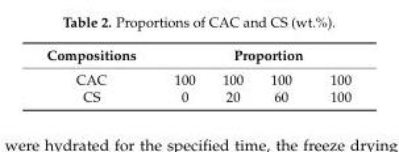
<table><thead><tr><td rowspan="2">Compositions CAC</td><td colspan="4">Proportion</td></tr><tr><td>100</td><td>100</td><td>100</td><td>100</td></tr></thead><tbody><tr><td>CS</td><td>0</td><td>20</td><td>60</td><td>100</td></tr></tbody></table>